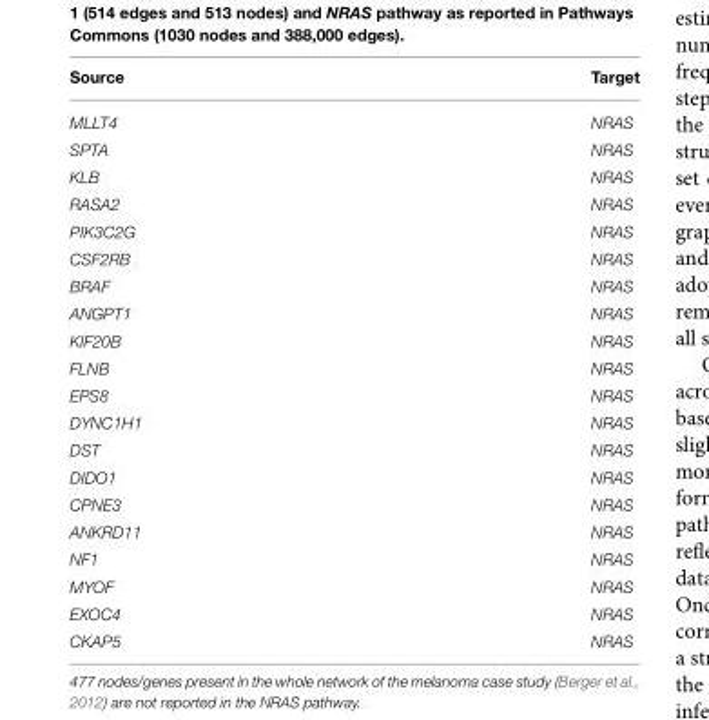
<table><thead><tr><td>Source</td><td>Target</td></tr></thead><tbody><tr><td>MLLT4</td><td>NRAS</td></tr><tr><td>SPTA</td><td>NRAS</td></tr><tr><td>KLB</td><td>NRAS</td></tr><tr><td>RASA2</td><td>NRAS</td></tr><tr><td>PIK3C2G</td><td>NRAS</td></tr><tr><td>CSF2RB</td><td>NRAS</td></tr><tr><td>BRAF</td><td>NRAS</td></tr><tr><td>ANGPT1</td><td>NRAS</td></tr><tr><td>KIF20B</td><td>NRAS</td></tr><tr><td>FLNB</td><td>NRAS</td></tr><tr><td>EPS8</td><td>NRAS</td></tr><tr><td>DYNC1H1</td><td>NRAS</td></tr><tr><td>DST</td><td>NRAS</td></tr><tr><td>DIDO1</td><td>NRAS</td></tr><tr><td>CPNE3</td><td>NRAS</td></tr><tr><td>ANKRD11</td><td>NRAS</td></tr><tr><td>NF1</td><td>NRAS</td></tr><tr><td>MYOF</td><td>NRAS</td></tr><tr><td>EXOC4</td><td>NRAS</td></tr><tr><td>CKAP5</td><td>NRAS</td></tr></tbody></table>